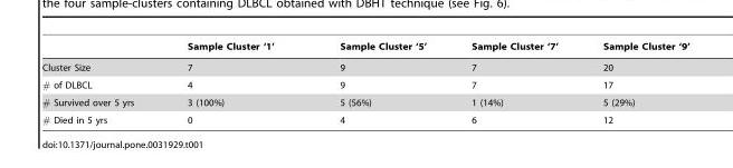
<table><thead><tr><td></td><td>Sample Cluster ‘1’</td><td>Sample Cluster ‘5’</td><td>Sample Cluster ‘7’</td><td>Sample Cluster ‘9’</td></tr></thead><tbody><tr><td>Cluster Size</td><td>7</td><td>9</td><td>7</td><td>20</td></tr><tr><td># of DLBCL</td><td>4</td><td>9</td><td>7</td><td>17</td></tr><tr><td># Survived over 5 yrs</td><td>3 (100%)</td><td>5 (56%)</td><td>1 (14%)</td><td>5 (29%)</td></tr><tr><td># Died in 5 yrs</td><td>0</td><td>4</td><td>6</td><td>12</td></tr></tbody></table>